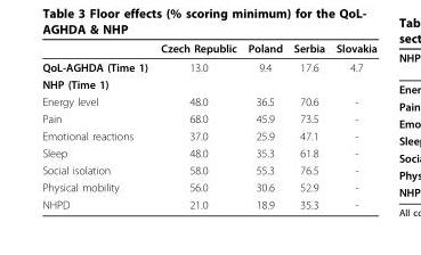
<table><thead><tr><td></td><td>Czech Republic</td><td>Poland</td><td>Serbia</td><td>Slovakia</td></tr></thead><tbody><tr><td>QoL-AGHDA (Time 1)</td><td>13.0</td><td>9.4</td><td>17.6</td><td>4.7</td></tr><tr><td colspan="5">NHP (Time 1)</td></tr><tr><td>Energy level</td><td>48.0</td><td>36.5</td><td>70.6</td><td>-</td></tr><tr><td>Pain</td><td>68.0</td><td>45.9</td><td>73.5</td><td>-</td></tr><tr><td>Emotional reactions</td><td>37.0</td><td>25.9</td><td>47.1</td><td>-</td></tr><tr><td>Sleep</td><td>48.0</td><td>35.3</td><td>61.8</td><td>-</td></tr><tr><td>Social isolation</td><td>58.0</td><td>55.3</td><td>76.5</td><td>-</td></tr><tr><td>Physical mobility</td><td>56.0</td><td>30.6</td><td>52.9</td><td>-</td></tr><tr><td>NHPD</td><td>21.0</td><td>18.9</td><td>35.3</td><td>-</td></tr></tbody></table>